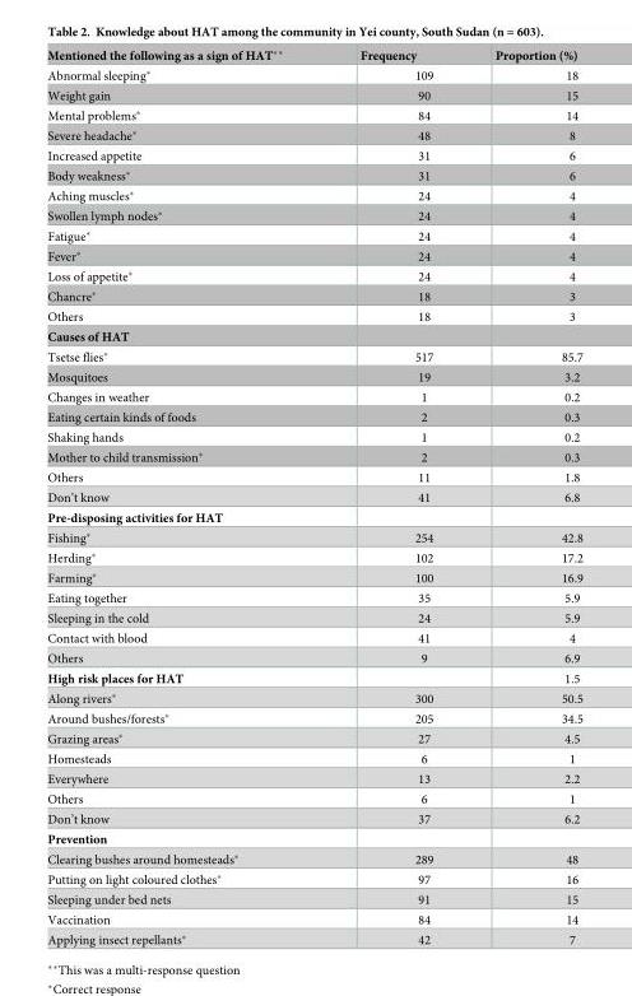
<table><thead><tr><td>Mentioned the following as a sign of HAT**</td><td>Frequency</td><td>Proportion (%)</td></tr></thead><tbody><tr><td>Abnormal sleeping*</td><td>109</td><td>18</td></tr><tr><td>Weight gain</td><td>90</td><td>15</td></tr><tr><td>Mental problems*</td><td>84</td><td>14</td></tr><tr><td>Severe headache*</td><td>48</td><td>8</td></tr><tr><td>Increased appetite</td><td>31</td><td>6</td></tr><tr><td>Body weakness*</td><td>31</td><td>6</td></tr><tr><td>Aching muscles*</td><td>24</td><td>4</td></tr><tr><td>Swollen lymph nodes*</td><td>24</td><td>4</td></tr><tr><td>Fatigue*</td><td>24</td><td>4</td></tr><tr><td>Fever*</td><td>24</td><td>4</td></tr><tr><td>Loss of appetite*</td><td>24</td><td>4</td></tr><tr><td>Chancre*</td><td>18</td><td>3</td></tr><tr><td>Others</td><td>18</td><td>3</td></tr><tr><td colspan="3">Causes of HAT</td></tr><tr><td>Tsetse flies*</td><td>517</td><td>85.7</td></tr><tr><td>Mosquitoes</td><td>19</td><td>3.2</td></tr><tr><td>Changes in weather</td><td>1</td><td>0.2</td></tr><tr><td>Eating certain kinds of foods</td><td>2</td><td>0.3</td></tr><tr><td>Shaking hands</td><td>1</td><td>0.2</td></tr><tr><td>Mother to child transmission*</td><td>2</td><td>0.3</td></tr><tr><td>Others</td><td>11</td><td>1.8</td></tr><tr><td>Don’t know</td><td>41</td><td>6.8</td></tr><tr><td colspan="3">Pre-disposing activities for HAT</td></tr><tr><td>Fishing*</td><td>254</td><td>42.8</td></tr><tr><td>Herding*</td><td>102</td><td>17.2</td></tr><tr><td>Farming*</td><td>100</td><td>16.9</td></tr><tr><td>Eating together</td><td>35</td><td>5.9</td></tr><tr><td>Sleeping in the cold</td><td>24</td><td>5.9</td></tr><tr><td>Contact with blood</td><td>41</td><td>4</td></tr><tr><td>Others</td><td>9</td><td>6.9</td></tr><tr><td>High risk places for HAT</td><td></td><td>1.5</td></tr><tr><td>Along rivers*</td><td>300</td><td>50.5</td></tr><tr><td>Around bushes/forests*</td><td>205</td><td>34.5</td></tr><tr><td>Grazing areas*</td><td>27</td><td>4.5</td></tr><tr><td>Homesteads</td><td>6</td><td>1</td></tr><tr><td>Everywhere</td><td>13</td><td>2.2</td></tr><tr><td>Others</td><td>6</td><td>1</td></tr><tr><td>Don’t know</td><td>37</td><td>6.2</td></tr><tr><td colspan="3">Prevention</td></tr><tr><td>Clearing bushes around homesteads*</td><td>289</td><td>48</td></tr><tr><td>Putting on light coloured clothes*</td><td>97</td><td>16</td></tr><tr><td>Sleeping under bed nets</td><td>91</td><td>15</td></tr><tr><td>Vaccination</td><td>84</td><td>14</td></tr><tr><td>Applying insect repellants*</td><td>42</td><td>7</td></tr></tbody></table>